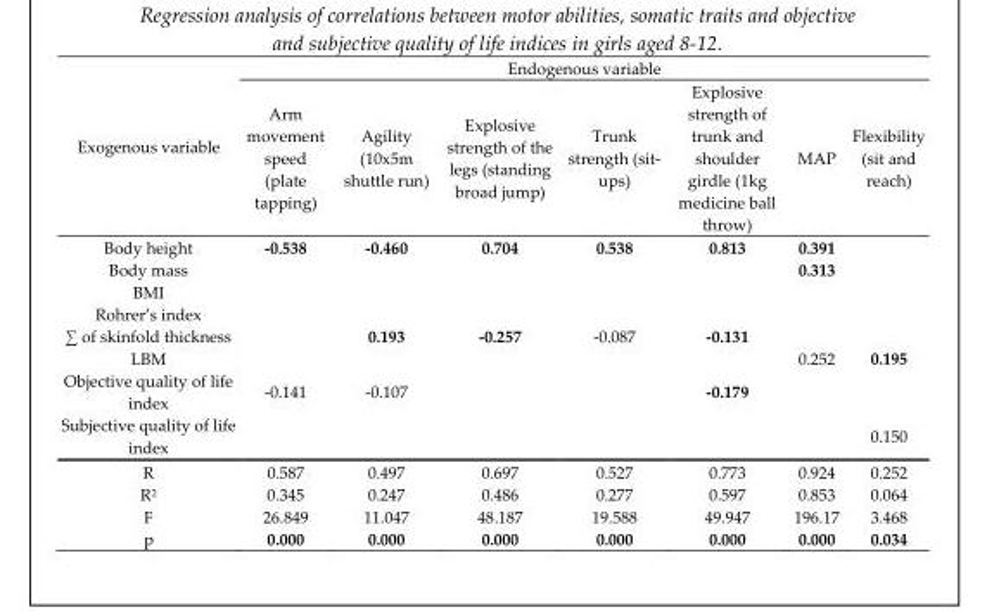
<table><thead><tr><td rowspan="2">Exogenous variable</td><td colspan="7">Endogenous variable</td></tr><tr><td>Arm movement speed (plate tapping)</td><td>Agility (10x5m shuttle run)</td><td>Explosive strength of the legs (standing broad jump)</td><td>Trunk strength (sit- ups)</td><td>Explosive strength of trunk and shoulder girdle (1kg medicine ball throw)</td><td>MAP</td><td>Flexibility (sit and reach)</td></tr></thead><tbody><tr><td>Body height</td><td>-0.538</td><td>-0.460</td><td>0.704</td><td>0.538</td><td>0.813</td><td>0.391</td><td></td></tr><tr><td>Body mass</td><td></td><td></td><td></td><td></td><td></td><td>0.313</td><td></td></tr><tr><td colspan="8">BMI</td></tr><tr><td colspan="8">Rohrer’s index</td></tr><tr><td>∑ of skinfold thickness</td><td></td><td>0.193</td><td>-0.257</td><td>-0.087</td><td>-0.131</td><td></td><td></td></tr><tr><td>LBM</td><td></td><td></td><td></td><td></td><td></td><td>0.252</td><td>0.195</td></tr><tr><td>Objective quality of life index</td><td>-0.141</td><td>-0.107</td><td></td><td></td><td>-0.179</td><td></td><td></td></tr><tr><td>Subjective quality of life index</td><td></td><td></td><td></td><td></td><td></td><td></td><td>0.150</td></tr><tr><td>R</td><td>0.587</td><td>0.497</td><td>0.697</td><td>0.527</td><td>0.773</td><td>0.924</td><td>0.252</td></tr><tr><td>R<sup>2</sup></td><td>0.345</td><td>0.247</td><td>0.486</td><td>0.277</td><td>0.597</td><td>0.853</td><td>0.064</td></tr><tr><td>F</td><td>26.849</td><td>11.047</td><td>48.187</td><td>19.588</td><td>49.947</td><td>196.17</td><td>3.468</td></tr><tr><td>p</td><td>0.000</td><td>0.000</td><td>0.000</td><td>0.000</td><td>0.000</td><td>0.000</td><td>0.034</td></tr></tbody></table>